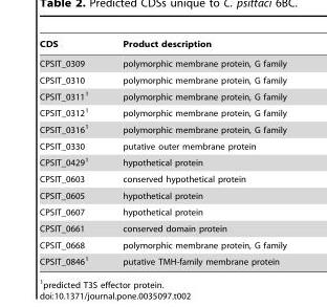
<table><thead><tr><td>CDS</td><td>Product description</td></tr></thead><tbody><tr><td>CPSIT_0309</td><td>polymorphic membrane protein, G family</td></tr><tr><td>CPSIT_0310</td><td>polymorphic membrane protein, G family</td></tr><tr><td>CPSIT_0311<sup>1</sup></td><td>polymorphic membrane protein, G family</td></tr><tr><td>CPSIT_0312<sup>1</sup></td><td>polymorphic membrane protein, G family</td></tr><tr><td>CPSIT_0316<sup>1</sup></td><td>polymorphic membrane protein, G family</td></tr><tr><td>CPSIT_0330</td><td>putative outer membrane protein</td></tr><tr><td>CPSIT_0429<sup>1</sup></td><td>hypothetical protein</td></tr><tr><td>CPSIT_0603</td><td>conserved hypothetical protein</td></tr><tr><td>CPSIT_0605</td><td>hypothetical protein</td></tr><tr><td>CPSIT_0607</td><td>hypothetical protein</td></tr><tr><td>CPSIT_0661</td><td>conserved domain protein</td></tr><tr><td>CPSIT_0668</td><td>polymorphic membrane protein, G family</td></tr><tr><td>CPSIT_0846<sup>1</sup></td><td>putative TMH-family membrane protein</td></tr></tbody></table>